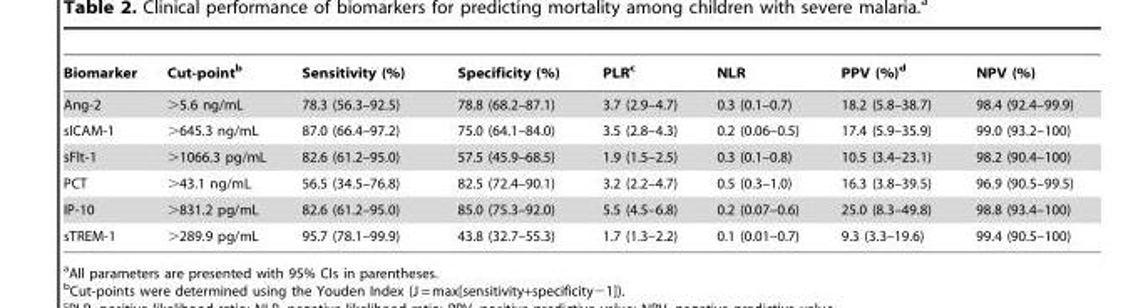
<table><thead><tr><td>Biomarker</td><td>Cut-point<sup>b</sup></td><td>Sensitivity (%)</td><td>Specificity (%)</td><td>PLR<sup>c</sup></td><td>NLR</td><td>PPV (%)<sup>d</sup></td><td>NPV (%)</td></tr></thead><tbody><tr><td>Ang-2</td><td>&gt;5.6 ng/mL</td><td>78.3 (56.3–92.5)</td><td>78.8 (68.2–87.1)</td><td>3.7 (2.9–4.7)</td><td>0.3 (0.1–0.7)</td><td>18.2 (5.8–38.7)</td><td>98.4 (92.4–99.9)</td></tr><tr><td>sICAM-1</td><td>&gt;645.3 ng/mL</td><td>87.0 (66.4–97.2)</td><td>75.0 (64.1–84.0)</td><td>3.5 (2.8–4.3)</td><td>0.2 (0.06–0.5)</td><td>17.4 (5.9–35.9)</td><td>99.0 (93.2–100)</td></tr><tr><td>sFlt-1</td><td>&gt;1066.3 pg/mL</td><td>82.6 (61.2–95.0)</td><td>57.5 (45.9–68.5)</td><td>1.9 (1.5–2.5)</td><td>0.3 (0.1–0.8)</td><td>10.5 (3.4–23.1)</td><td>98.2 (90.4–100)</td></tr><tr><td>PCT</td><td>&gt;43.1 ng/mL</td><td>56.5 (34.5–76.8)</td><td>82.5 (72.4–90.1)</td><td>3.2 (2.2–4.7)</td><td>0.5 (0.3–1.0)</td><td>16.3 (3.8–39.5)</td><td>96.9 (90.5–99.5)</td></tr><tr><td>IP-10</td><td>&gt;831.2 pg/mL</td><td>82.6 (61.2–95.0)</td><td>85.0 (75.3–92.0)</td><td>5.5 (4.5–6.8)</td><td>0.2 (0.07–0.6)</td><td>25.0 (8.3–49.8)</td><td>98.8 (93.4–100)</td></tr><tr><td>sTREM-1</td><td>&gt;289.9 pg/mL</td><td>95.7 (78.1–99.9)</td><td>43.8 (32.7–55.3)</td><td>1.7 (1.3–2.2)</td><td>0.1 (0.01–0.7)</td><td>9.3 (3.3–19.6)</td><td>99.4 (90.5–100)</td></tr></tbody></table>